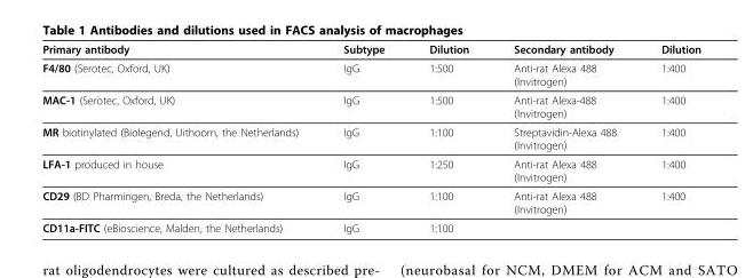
<table><thead><tr><td>Primary antibody</td><td>Subtype</td><td>Dilution</td><td>Secondary antibody</td><td>Dilution</td></tr></thead><tbody><tr><td>F4/80 (Serotec, Oxford, UK)</td><td>IgG</td><td>1:500</td><td>Anti-rat Alexa 488 (Invitrogen)</td><td>1:400</td></tr><tr><td>MAC-1 (Serotec, Oxford, UK)</td><td>IgG</td><td>1:500</td><td>Anti-rat Alexa-488 (Invitrogen)</td><td>1:400</td></tr><tr><td>MR biotinylated (Biolegend, Uithoorn, the Netherlands)</td><td>IgG</td><td>1:100</td><td>Streptavidin-Alexa 488 (Invitrogen)</td><td>1:400</td></tr><tr><td>LFA-1 produced in house</td><td>IgG</td><td>1:250</td><td>Anti-rat Alexa 488 (Invitrogen)</td><td>1:400</td></tr><tr><td>CD29 (BD Pharmingen, Breda, the Netherlands)</td><td>IgG</td><td>1:100</td><td>Anti-rat Alexa 488 (Invitrogen)</td><td>1:400</td></tr><tr><td>CD11a-FITC (eBioscience, Malden, the Netherlands)</td><td>IgG</td><td>1:100</td><td></td><td></td></tr></tbody></table>